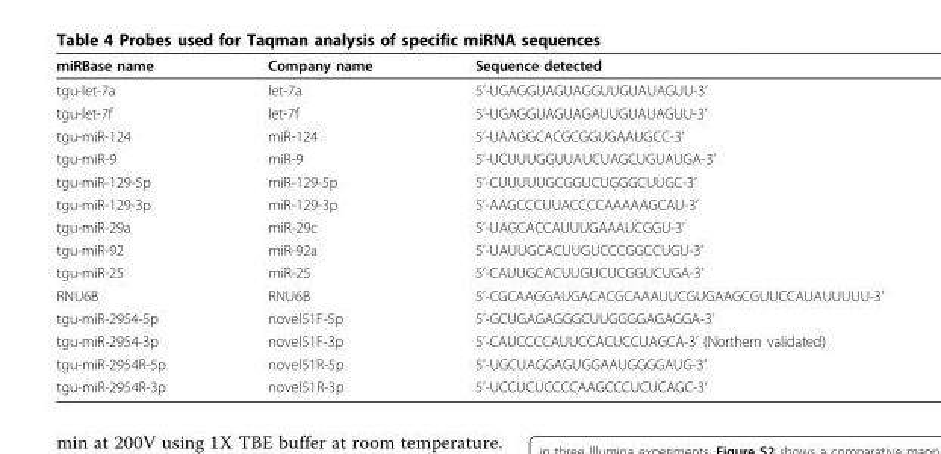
<table><thead><tr><td>miRBase name</td><td>Company name</td><td>Sequence detected</td></tr></thead><tbody><tr><td>tgu-let-7a</td><td>let-7a</td><td>5’-UGAGGUAGUAGGUUGUAUAGUU-3’</td></tr><tr><td>tgu-let-7f</td><td>let-7f</td><td>5’-UGAGGUAGUAGAUUGUAUAGUU-3’</td></tr><tr><td>tgu-miR-124</td><td>miR-124</td><td>5’-UAAGGCACGCGGUGAAUGCC-3’</td></tr><tr><td>tgu-miR-9</td><td>miR-9</td><td>5’-UCUUUGGUUAUCUAGCUGUAUGA-3’</td></tr><tr><td>tgu-miR-129-5p</td><td>miR-129-5p</td><td>5’-CUUUUUGCGGUCUGGGCUUGC-3’</td></tr><tr><td>tgu-miR-129-3p</td><td>miR-129-3p</td><td>5’-AAGCCCUUACCCCAAAAAGCAU-3’</td></tr><tr><td>tgu-miR-29a</td><td>miR-29c</td><td>5’-UAGCACCAUUUGAAAUCGGU-3’</td></tr><tr><td>tgu-miR-92</td><td>miR-92a</td><td>5’-UAUUGCACUUGUCCCGGCCUGU-3’</td></tr><tr><td>tgu-miR-25</td><td>miR-25</td><td>5’-CAUUGCACUUGUCUCGGUCUGA-3’</td></tr><tr><td>RNU6B</td><td>RNU6B</td><td>5’-CGCAAGGAUGACACGCAAAUUCGUGAAGCGUUCCAUAUUUUU-3’</td></tr><tr><td>tgu-miR-2954-5p</td><td>novel51F-5p</td><td>5’-GCUGAGAGGGCUUGGGGAGAGGA-3’</td></tr><tr><td>tgu-miR-2954-3p</td><td>novel51F-3p</td><td>5’-CAUCCCCAUUCCACUCCUAGCA-3’ (Northern validated)</td></tr><tr><td>tgu-miR-2954R-5p</td><td>novel51R-5p</td><td>5’-UGCUAGGAGUGGAAUGGGGAUG-3’</td></tr><tr><td>tgu-miR-2954R-3p</td><td>novel51R-3p</td><td>5’-UCCUCUCCCCAAGCCCUCUCAGC-3’</td></tr></tbody></table>